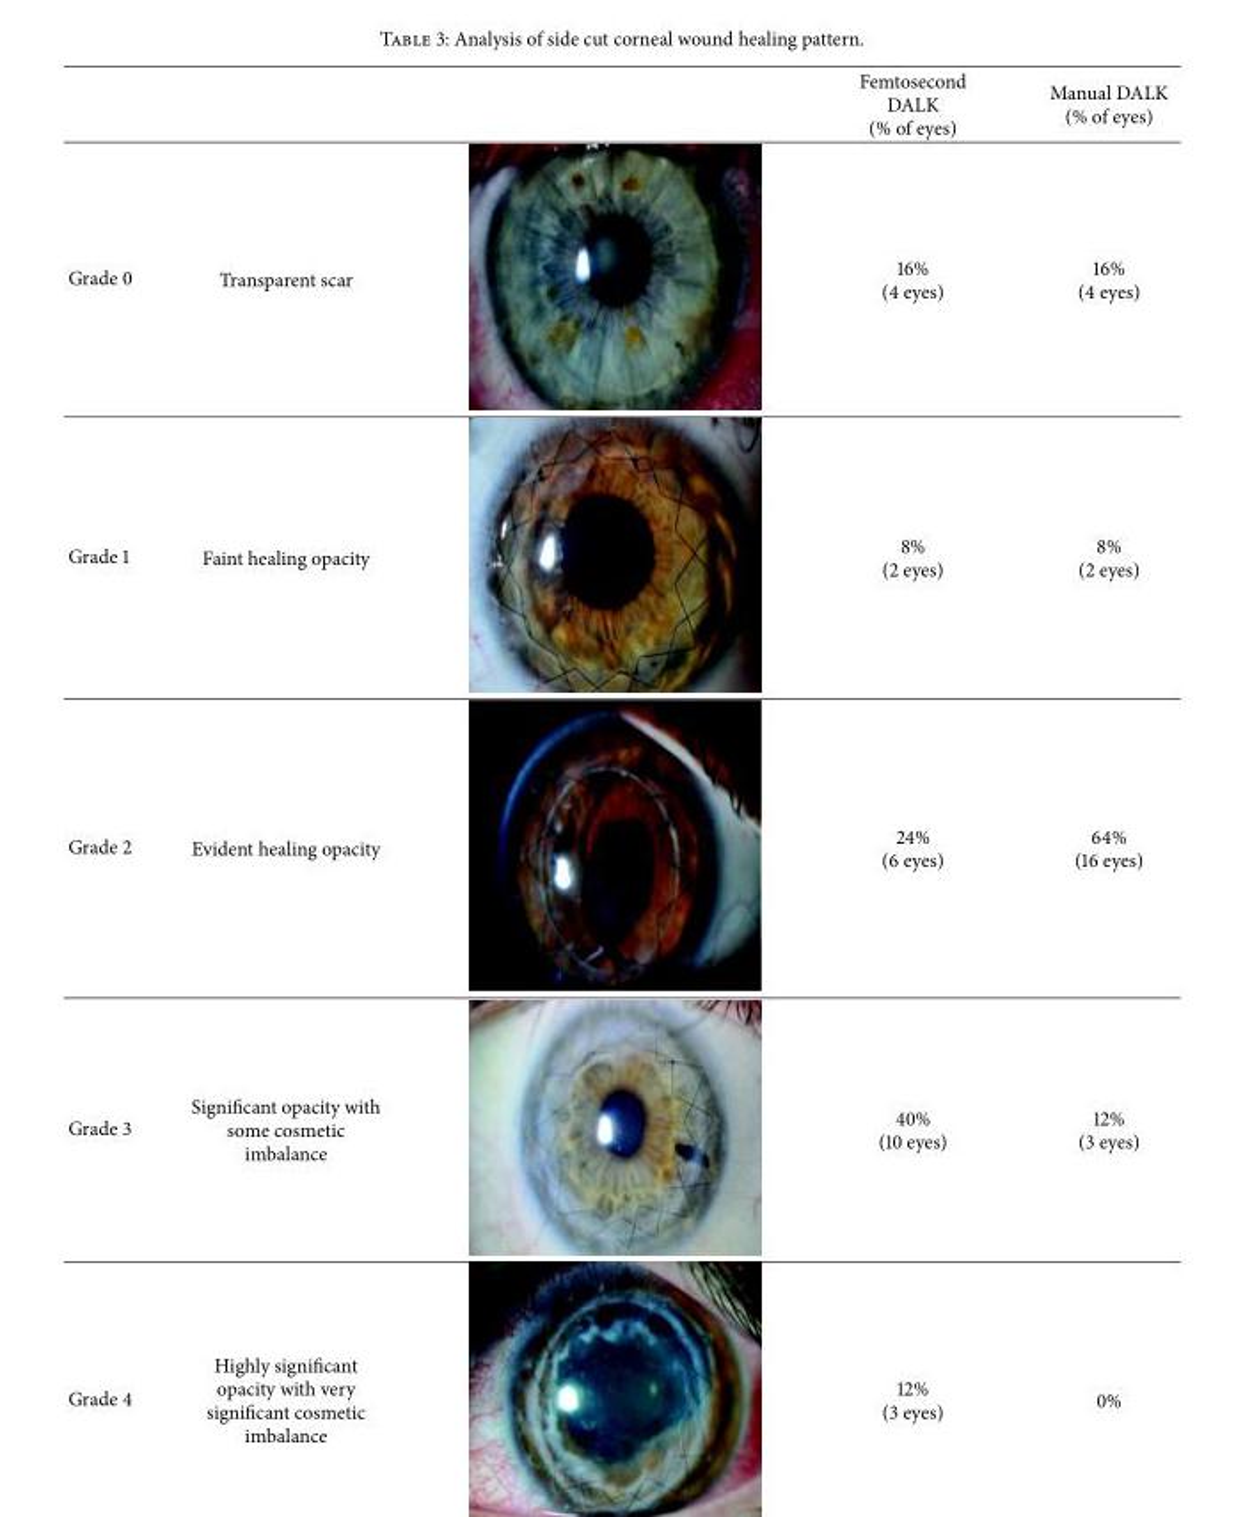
<table><thead><tr><td></td><td></td><td>Femtosecond DALK (% of eyes)</td><td>Manual DALK (% of eyes)</td></tr></thead><tbody><tr><td>Grade 0</td><td>Transparent scar</td><td>16% (4 eyes)</td><td>16% (4 eyes)</td></tr><tr><td>Grade 1</td><td>Faint healing opacity</td><td>8% (2 eyes)</td><td>8% (2 eyes)</td></tr><tr><td>Grade 2</td><td>Evident healing opacity</td><td>24% (6 eyes)</td><td>64% (16 eyes)</td></tr><tr><td>Grade 3</td><td>Significant opacity with some cosmetic imbalance</td><td>40% (10 eyes)</td><td>12% (3 eyes)</td></tr><tr><td>Grade 4</td><td>Highly significant opacity with very significant cosmetic imbalance</td><td>12% (3 eyes)</td><td>0%</td></tr></tbody></table>